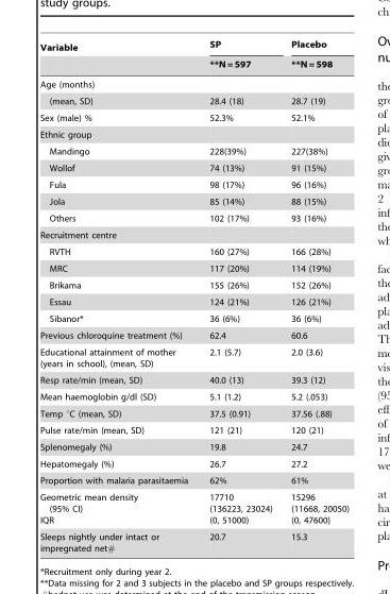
<table><thead><tr><td rowspan="2">Variable</td><td rowspan="2">SP **N = 597</td><td rowspan="2">Placebo **N = 598</td></tr><tr></tr></thead><tbody><tr><td colspan="3">Age (months)</td></tr><tr><td>(mean, SD)</td><td>28.4 (18)</td><td>28.7 (19)</td></tr><tr><td>Sex (male) %</td><td>52.3%</td><td>52.1%</td></tr><tr><td colspan="3">Ethnic group</td></tr><tr><td>Mandingo</td><td>228(39%)</td><td>227(38%)</td></tr><tr><td>Wollof</td><td>74 (13%)</td><td>91 (15%)</td></tr><tr><td>Fula</td><td>98 (17%)</td><td>96 (16%)</td></tr><tr><td>Jola</td><td>85 (14%)</td><td>88 (15%)</td></tr><tr><td>Others</td><td>102 (17%)</td><td>93 (16%)</td></tr><tr><td colspan="3">Recruitment centre</td></tr><tr><td>RVTH</td><td>160 (27%)</td><td>166 (28%)</td></tr><tr><td>MRC</td><td>117 (20%)</td><td>114 (19%)</td></tr><tr><td>Brikama</td><td>155 (26%)</td><td>152 (26%)</td></tr><tr><td>Essau</td><td>124 (21%)</td><td>126 (21%)</td></tr><tr><td>Sibanor*</td><td>36 (6%)</td><td>36 (6%)</td></tr><tr><td>Previous chloroquine treatment (%)</td><td>62.4</td><td>60.6</td></tr><tr><td>Educational attainment of mother (years in school), (mean, SD)</td><td>2.1 (5.7)</td><td>2.0 (3.6)</td></tr><tr><td>Resp rate/min (mean, SD)</td><td>40.0 (13)</td><td>39.3 (12)</td></tr><tr><td>Mean haemoglobin g/dl (SD)</td><td>5.1 (1.2)</td><td>5.2 (.053)</td></tr><tr><td>Temp °C (mean, SD)</td><td>37.5 (0.91)</td><td>37.56 (.88)</td></tr><tr><td>Pulse rate/min (mean, SD)</td><td>121 (21)</td><td>120 (21)</td></tr><tr><td>Splenomegaly (%)</td><td>19.8</td><td>24.7</td></tr><tr><td>Hepatomegaly (%)</td><td>26.7</td><td>27.2</td></tr><tr><td>Proportion with malaria parasitaemia</td><td>62%</td><td>61%</td></tr><tr><td>Geometric mean density (95% CI) IQR</td><td>17710 (136223, 23024) (0, 51000)</td><td>15296 (11668, 20050) (0, 47600)</td></tr><tr><td>Sleeps nightly under intact or impregnated net#</td><td>20.7</td><td>15.3</td></tr></tbody></table>